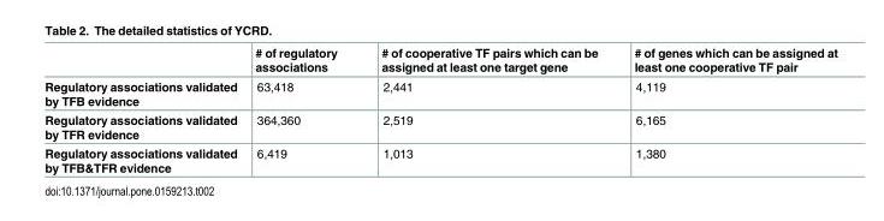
<table><thead><tr><td></td><td># of regulatory associations</td><td># of cooperative TF pairs which can be assigned at least one target gene</td><td># of genes which can be assigned at least one cooperative TF pair</td></tr></thead><tbody><tr><td>Regulatory associations validated by TFB evidence</td><td>63,418</td><td>2,441</td><td>4,119</td></tr><tr><td>Regulatory associations validated by TFR evidence</td><td>364,360</td><td>2,519</td><td>6,165</td></tr><tr><td>Regulatory associations validated by TFB&amp;TFR evidence</td><td>6,419</td><td>1,013</td><td>1,380</td></tr></tbody></table>